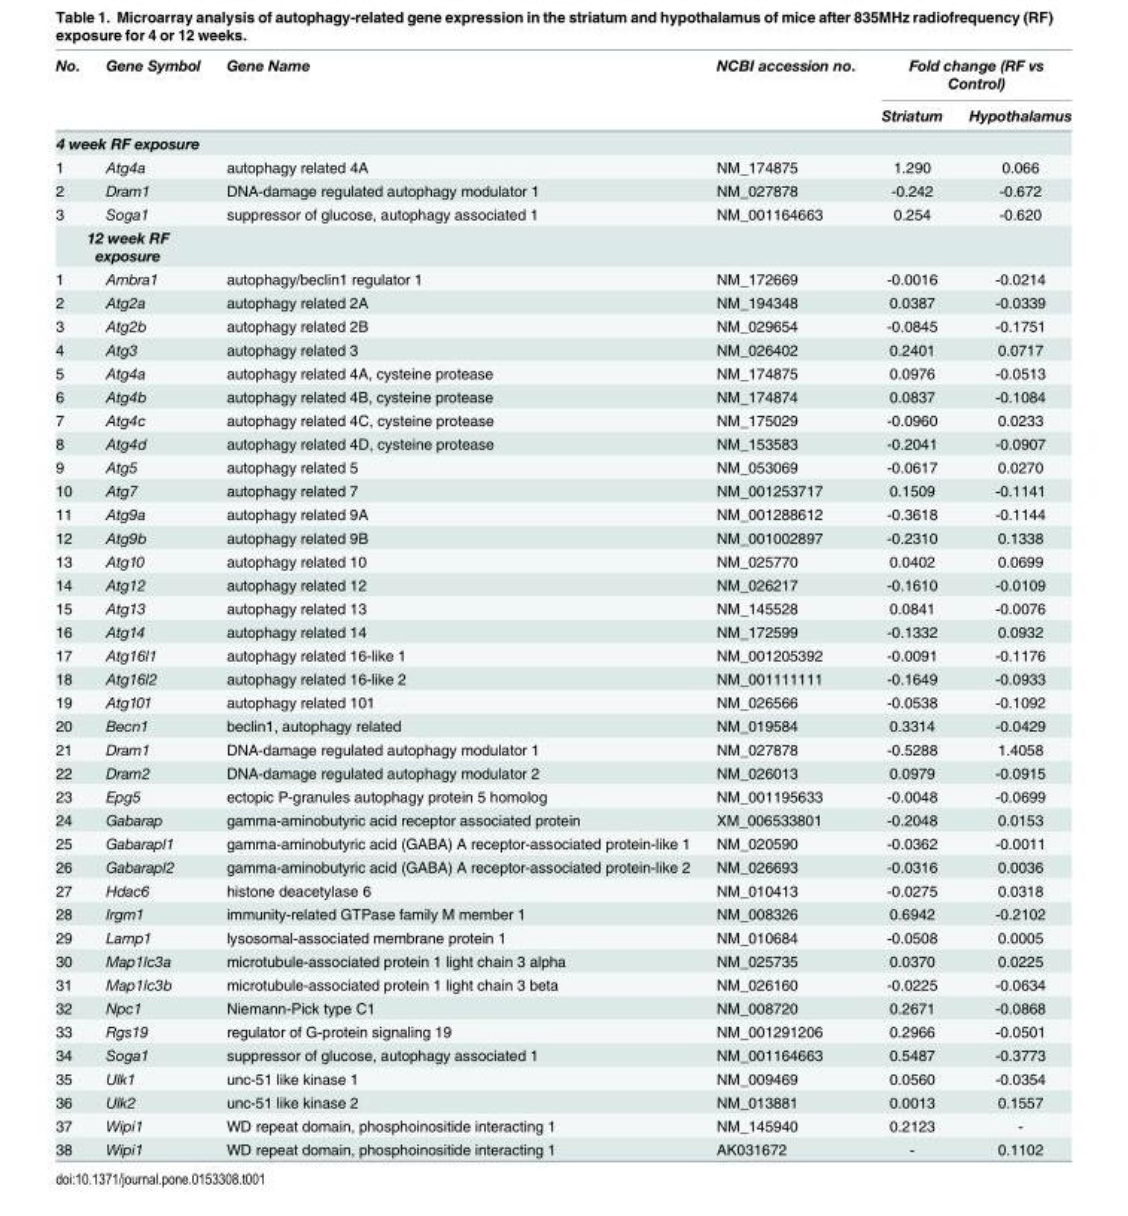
<table><thead><tr><td rowspan="2">No.</td><td rowspan="2">Gene Symbol</td><td rowspan="2">Gene Name</td><td rowspan="2">NCBI accession no.</td><td colspan="2">Fold change (RF vs Control)</td></tr><tr><td>Striatum</td><td>Hypothalamus</td></tr></thead><tbody><tr><td colspan="6">4 week RF exposure</td></tr><tr><td>1</td><td>Atg4a</td><td>autophagy related 4A</td><td>NM_174875</td><td>1.290</td><td>0.066</td></tr><tr><td>2</td><td>Dram1</td><td>DNA-damage regulated autophagy modulator 1</td><td>NM_027878</td><td>-0.242</td><td>-0.672</td></tr><tr><td>3</td><td>Soga1</td><td>suppressor of glucose, autophagy associated 1</td><td>NM_001164663</td><td>0.254</td><td>-0.620</td></tr><tr><td colspan="6">12 week RF exposure</td></tr><tr><td>1</td><td>Ambra1</td><td>autophagy/beclin1 regulator 1</td><td>NM_172669</td><td>-0.0016</td><td>-0.0214</td></tr><tr><td>2</td><td>Atg2a</td><td>autophagy related 2A</td><td>NM_194348</td><td>0.0387</td><td>-0.0339</td></tr><tr><td>3</td><td>Atg2b</td><td>autophagy related 2B</td><td>NM_029654</td><td>-0.0845</td><td>-0.1751</td></tr><tr><td>4</td><td>Atg3</td><td>autophagy related 3</td><td>NM_026402</td><td>0.2401</td><td>0.0717</td></tr><tr><td>5</td><td>Atg4a</td><td>autophagy related 4A, cysteine protease</td><td>NM_174875</td><td>0.0976</td><td>-0.0513</td></tr><tr><td>6</td><td>Atg4b</td><td>autophagy related 4B, cysteine protease</td><td>NM_174874</td><td>0.0837</td><td>-0.1084</td></tr><tr><td>7</td><td>Atg4c</td><td>autophagy related 4C, cysteine protease</td><td>NM_175029</td><td>-0.0960</td><td>0.0233</td></tr><tr><td>8</td><td>Atg4d</td><td>autophagy related 4D, cysteine protease</td><td>NM_153583</td><td>-0.2041</td><td>-0.0907</td></tr><tr><td>9</td><td>Atg5</td><td>autophagy related 5</td><td>NM_053069</td><td>-0.0617</td><td>0.0270</td></tr><tr><td>10</td><td>Atg7</td><td>autophagy related 7</td><td>NM_001253717</td><td>0.1509</td><td>-0.1141</td></tr><tr><td>11</td><td>Atg9a</td><td>autophagy related 9A</td><td>NM_001288612</td><td>-0.3618</td><td>-0.1144</td></tr><tr><td>12</td><td>Atg9b</td><td>autophagy related 9B</td><td>NM_001002897</td><td>-0.2310</td><td>0.1338</td></tr><tr><td>13</td><td>Atg10</td><td>autophagy related 10</td><td>NM_025770</td><td>0.0402</td><td>0.0699</td></tr><tr><td>14</td><td>Atg12</td><td>autophagy related 12</td><td>NM_026217</td><td>-0.1610</td><td>-0.0109</td></tr><tr><td>15</td><td>Atg13</td><td>autophagy related 13</td><td>NM_145528</td><td>0.0841</td><td>-0.0076</td></tr><tr><td>16</td><td>Atg14</td><td>autophagy related 14</td><td>NM_172599</td><td>-0.1332</td><td>0.0932</td></tr><tr><td>17</td><td>Atg16l1</td><td>autophagy related 16-like 1</td><td>NM_001205392</td><td>-0.0091</td><td>-0.1176</td></tr><tr><td>18</td><td>Atg16l2</td><td>autophagy related 16-like 2</td><td>NM_001111111</td><td>-0.1649</td><td>-0.0933</td></tr><tr><td>19</td><td>Atg101</td><td>autophagy related 101</td><td>NM_026566</td><td>-0.0538</td><td>-0.1092</td></tr><tr><td>20</td><td>Becn1</td><td>beclin1, autophagy related</td><td>NM_019584</td><td>0.3314</td><td>-0.0429</td></tr><tr><td>21</td><td>Dram1</td><td>DNA-damage regulated autophagy modulator 1</td><td>NM_027878</td><td>-0.5288</td><td>1.4058</td></tr><tr><td>22</td><td>Dram2</td><td>DNA-damage regulated autophagy modulator 2</td><td>NM_026013</td><td>0.0979</td><td>-0.0915</td></tr><tr><td>23</td><td>Epg5</td><td>ectopic P-granules autophagy protein 5 homolog</td><td>NM_001195633</td><td>-0.0048</td><td>-0.0699</td></tr><tr><td>24</td><td>Gabarap</td><td>gamma-aminobutyric acid receptor associated protein</td><td>XM_006533801</td><td>-0.2048</td><td>0.0153</td></tr><tr><td>25</td><td>Gabarapl1</td><td>gamma-aminobutyric acid (GABA) A receptor-associated protein-like 1</td><td>NM_020590</td><td>-0.0362</td><td>-0.0011</td></tr><tr><td>26</td><td>Gabarapl2</td><td>gamma-aminobutyric acid (GABA) A receptor-associated protein-like 2</td><td>NM_026693</td><td>-0.0316</td><td>0.0036</td></tr><tr><td>27</td><td>Hdac6</td><td>histone deacetylase 6</td><td>NM_010413</td><td>-0.0275</td><td>0.0318</td></tr><tr><td>28</td><td>Irgm1</td><td>immunity-related GTPase family M member 1</td><td>NM_008326</td><td>0.6942</td><td>-0.2102</td></tr><tr><td>29</td><td>Lamp1</td><td>lysosomal-associated membrane protein 1</td><td>NM_010684</td><td>-0.0508</td><td>0.0005</td></tr><tr><td>30</td><td>Map1lc3a</td><td>microtubule-associated protein 1 light chain 3 alpha</td><td>NM_025735</td><td>0.0370</td><td>0.0225</td></tr><tr><td>31</td><td>Map1lc3b</td><td>microtubule-associated protein 1 light chain 3 beta</td><td>NM_026160</td><td>-0.0225</td><td>-0.0634</td></tr><tr><td>32</td><td>Npc1</td><td>Niemann-Pick type C1</td><td>NM_008720</td><td>0.2671</td><td>-0.0868</td></tr><tr><td>33</td><td>Rgs19</td><td>regulator of G-protein signaling 19</td><td>NM_001291206</td><td>0.2966</td><td>-0.0501</td></tr><tr><td>34</td><td>Soga1</td><td>suppressor of glucose, autophagy associated 1</td><td>NM_001164663</td><td>0.5487</td><td>-0.3773</td></tr><tr><td>35</td><td>Ulk1</td><td>unc-51 like kinase 1</td><td>NM_009469</td><td>0.0560</td><td>-0.0354</td></tr><tr><td>36</td><td>Ulk2</td><td>unc-51 like kinase 2</td><td>NM_013881</td><td>0.0013</td><td>0.1557</td></tr><tr><td>37</td><td>Wipi1</td><td>WD repeat domain, phosphoinositide interacting 1</td><td>NM_145940</td><td>0.2123</td><td>-</td></tr><tr><td>38</td><td>Wipi1</td><td>WD repeat domain, phosphoinositide interacting 1</td><td>AK031672</td><td>-</td><td>0.1102</td></tr></tbody></table>